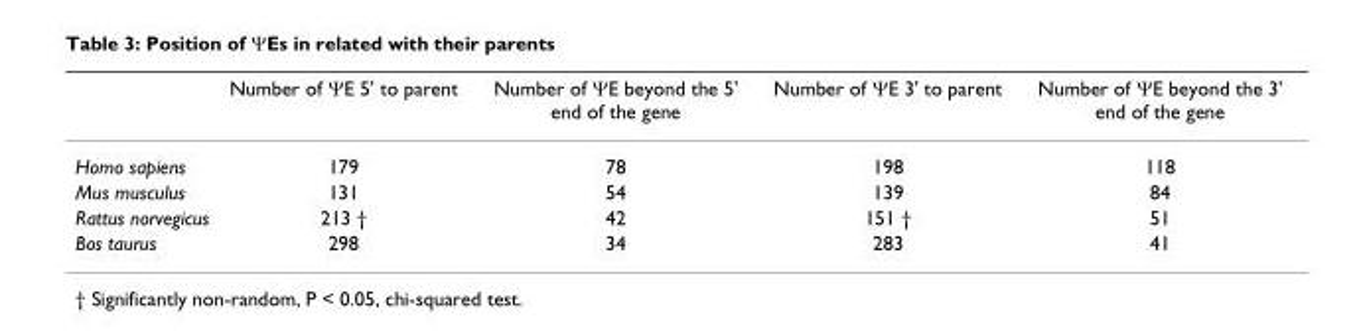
<table><thead><tr><td></td><td>Number of ΨE 5&#x27; to parent</td><td>Number of ΨE beyond the 5&#x27; end of the gene</td><td>Number of ΨE 3&#x27; to parent</td><td>Number of ΨE beyond the 3&#x27; end of the gene</td></tr></thead><tbody><tr><td>Homo sapiens</td><td>179</td><td>78</td><td>198</td><td>118</td></tr><tr><td>Mus musculus</td><td>131</td><td>54</td><td>139</td><td>84</td></tr><tr><td>Rattus norvegicus</td><td>213 †</td><td>42</td><td>151 †</td><td>51</td></tr><tr><td>Bos taurus</td><td>298</td><td>34</td><td>283</td><td>41</td></tr></tbody></table>